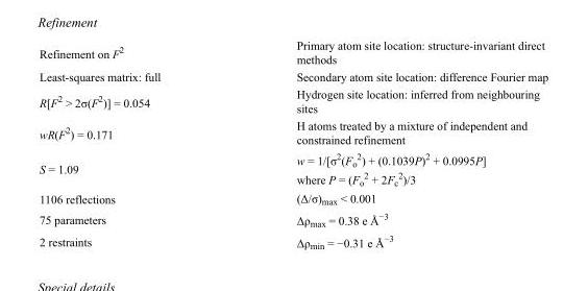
<table><tbody><tr><td>Refinement on F<sup>2</sup></td><td>Primary atom site location: structure-invariant direct methods</td></tr><tr><td>Least-squares matrix: full</td><td>Secondary atom site location: difference Fourier map</td></tr><tr><td>R[F<sup>2</sup> &gt; 2σ(F<sup>2</sup>)] = 0.054</td><td>Hydrogen site location: inferred from neighbouring sites</td></tr><tr><td>wR(F<sup>2</sup>) = 0.171</td><td>H atoms treated by a mixture of independent and constrained refinement</td></tr><tr><td>S = 1.09</td><td>w = 1/[σ<sup>2</sup>(F<sub>o</sub> <sup>2</sup>) + (0.1039P)<sup>2</sup> + 0.0995P] where P = (F<sub>o</sub> <sup>2</sup> + 2F<sub>c</sub> <sup>2</sup>)/3</td></tr><tr><td>1106 reflections</td><td>(Δ/σ)<sub>max</sub> &lt; 0.001</td></tr><tr><td>75 parameters</td><td>Δρ<sub>max</sub> = 0.38 e Å<sup>−3</sup></td></tr><tr><td>2 restraints</td><td>Δρ<sub>min</sub> = −0.31 e Å<sup>−3</sup></td></tr></tbody></table>